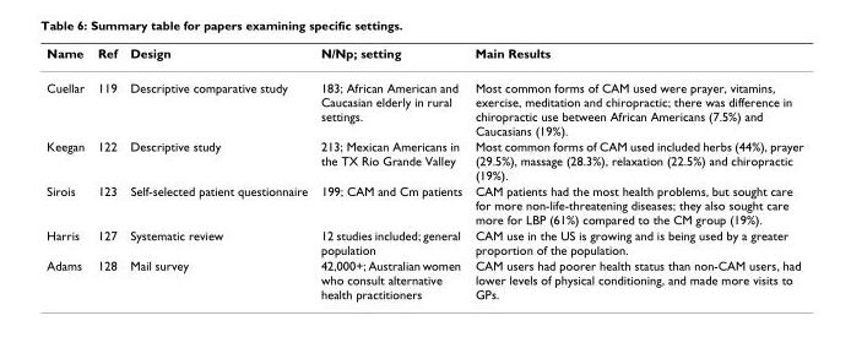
<table><thead><tr><td>Name</td><td>Ref</td><td>Design</td><td>N/Np; setting</td><td>Main Results</td></tr></thead><tbody><tr><td>Cuellar</td><td>119</td><td>Descriptive comparative study</td><td>183; African American and Caucasian elderly in rural settings.</td><td>Most common forms of CAM used were prayer, vitamins, exercise, meditation and chiropractic; there was difference in chiropractic use between African Americans (7.5%) and Caucasians (19%).</td></tr><tr><td>Keegan</td><td>122</td><td>Descriptive study</td><td>213; Mexican Americans in the TX Rio Grande Valley</td><td>Most common forms of CAM used included herbs (44%), prayer (29.5%), massage (28.3%), relaxation (22.5%) and chiropractic (19%).</td></tr><tr><td>Sirois</td><td>123</td><td>Self-selected patient questionnaire</td><td>199; CAM and Cm patients</td><td>CAM patients had the most health problems, but sought care for more non-life-threatening diseases; they also sought care more for LBP (61%) compared to the CM group (19%).</td></tr><tr><td>Harris</td><td>127</td><td>Systematic review</td><td>12 studies included; general population</td><td>CAM use in the US is growing and is being used by a greater proportion of the population.</td></tr><tr><td>Adams</td><td>128</td><td>Mail survey</td><td>42,000+; Australian women who consult alternative health practitioners</td><td>CAM users had poorer health status than non-CAM users, had lower levels of physical conditioning, and made more visits to GPs.</td></tr></tbody></table>